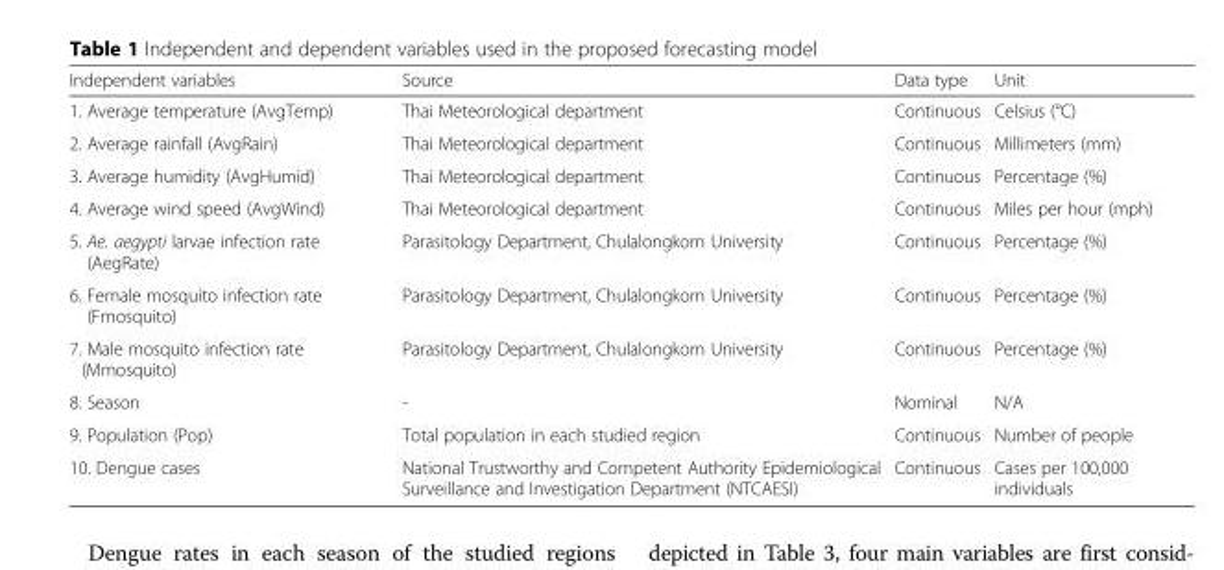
<table><thead><tr><td>Independent variables</td><td>Source</td><td>Data type</td><td>Unit</td></tr></thead><tbody><tr><td>1. Average temperature (AvgTemp)</td><td>Thai Meteorological department</td><td>Continuous</td><td>Celsius (°C)</td></tr><tr><td>2. Average rainfall (AvgRain)</td><td>Thai Meteorological department</td><td>Continuous</td><td>Millimeters (mm)</td></tr><tr><td>3. Average humidity (AvgHumid)</td><td>Thai Meteorological department</td><td>Continuous</td><td>Percentage (%)</td></tr><tr><td>4. Average wind speed (AvgWind)</td><td>Thai Meteorological department</td><td>Continuous</td><td>Miles per hour (mph)</td></tr><tr><td>5. Ae. aegypti larvae infection rate (AegRate)</td><td>Parasitology Department, Chulalongkorn University</td><td>Continuous</td><td>Percentage (%)</td></tr><tr><td>6. Female mosquito infection rate (Fmosquito)</td><td>Parasitology Department, Chulalongkorn University</td><td>Continuous</td><td>Percentage (%)</td></tr><tr><td>7. Male mosquito infection rate (Mmosquito)</td><td>Parasitology Department, Chulalongkorn University</td><td>Continuous</td><td>Percentage (%)</td></tr><tr><td>8. Season</td><td>-</td><td>Nominal</td><td>N/A</td></tr><tr><td>9. Population (Pop)</td><td>Total population in each studied region</td><td>Continuous</td><td>Number of people</td></tr><tr><td>10. Dengue cases</td><td>National Trustworthy and Competent Authority Epidemiological Surveillance and Investigation Department (NTCAESI)</td><td>Continuous</td><td>Cases per 100,000 individuals</td></tr></tbody></table>